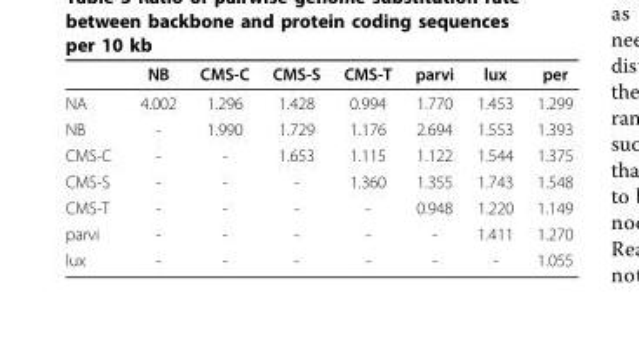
<table><thead><tr><td></td><td>NB</td><td>CMS-C</td><td>CMS-S</td><td>CMS-T</td><td>parvi</td><td>lux</td><td>per</td></tr></thead><tbody><tr><td>NA</td><td>4.002</td><td>1.296</td><td>1.428</td><td>0.994</td><td>1.770</td><td>1.453</td><td>1.299</td></tr><tr><td>NB</td><td>-</td><td>1.990</td><td>1.729</td><td>1.176</td><td>2.694</td><td>1.553</td><td>1.393</td></tr><tr><td>CMS-C</td><td>-</td><td>-</td><td>1.653</td><td>1.115</td><td>1.122</td><td>1.544</td><td>1.375</td></tr><tr><td>CMS-S</td><td>-</td><td>-</td><td>-</td><td>1.360</td><td>1.355</td><td>1.743</td><td>1.548</td></tr><tr><td>CMS-T</td><td>-</td><td>-</td><td>-</td><td>-</td><td>0.948</td><td>1.220</td><td>1.149</td></tr><tr><td>parvi</td><td>-</td><td>-</td><td>-</td><td>-</td><td>-</td><td>1.411</td><td>1.270</td></tr><tr><td>lux</td><td>-</td><td>-</td><td>-</td><td>-</td><td>-</td><td>-</td><td>1.055</td></tr></tbody></table>